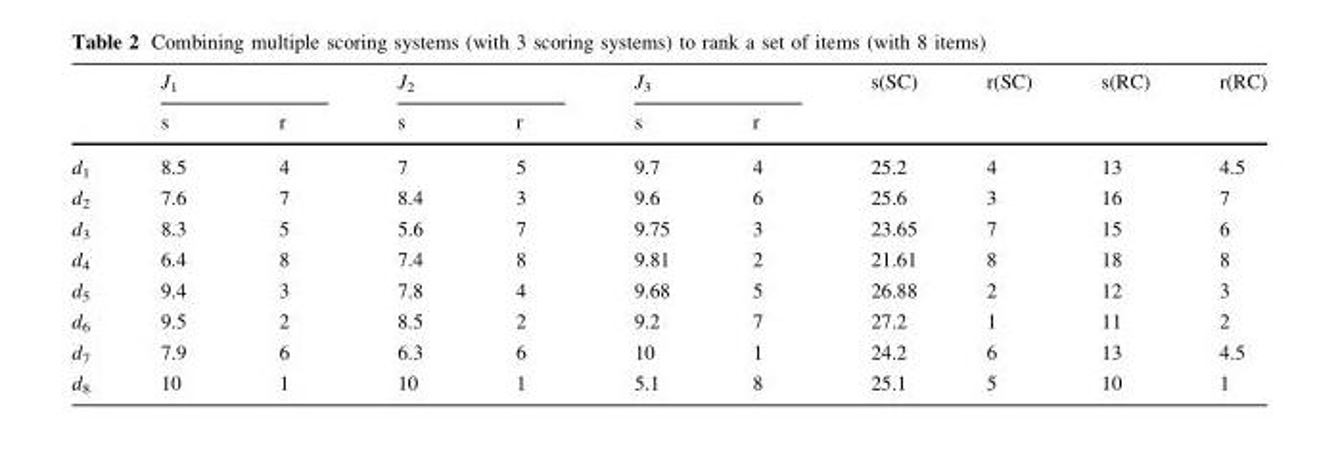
<table><thead><tr><td rowspan="2"></td><td colspan="2">J<sub>1</sub></td><td colspan="2">J<sub>2</sub></td><td colspan="2">J<sub>3</sub></td><td rowspan="2">s(SC)</td><td rowspan="2">r(SC)</td><td rowspan="2">s(RC)</td><td rowspan="2">r(RC)</td></tr><tr><td>s</td><td>r</td><td>s</td><td>r</td><td>s</td><td>r</td></tr></thead><tbody><tr><td>d<sub>1</sub></td><td>8.5</td><td>4</td><td>7</td><td>5</td><td>9.7</td><td>4</td><td>25.2</td><td>4</td><td>13</td><td>4.5</td></tr><tr><td>d<sub>2</sub></td><td>7.6</td><td>7</td><td>8.4</td><td>3</td><td>9.6</td><td>6</td><td>25.6</td><td>3</td><td>16</td><td>7</td></tr><tr><td>d<sub>3</sub></td><td>8.3</td><td>5</td><td>5.6</td><td>7</td><td>9.75</td><td>3</td><td>23.65</td><td>7</td><td>15</td><td>6</td></tr><tr><td>d<sub>4</sub></td><td>6.4</td><td>8</td><td>7.4</td><td>8</td><td>9.81</td><td>2</td><td>21.61</td><td>8</td><td>18</td><td>8</td></tr><tr><td>d<sub>5</sub></td><td>9.4</td><td>3</td><td>7.8</td><td>4</td><td>9.68</td><td>5</td><td>26.88</td><td>2</td><td>12</td><td>3</td></tr><tr><td>d<sub>6</sub></td><td>9.5</td><td>2</td><td>8.5</td><td>2</td><td>9.2</td><td>7</td><td>27.2</td><td>1</td><td>11</td><td>2</td></tr><tr><td>d<sub>7</sub></td><td>7.9</td><td>6</td><td>6.3</td><td>6</td><td>10</td><td>1</td><td>24.2</td><td>6</td><td>13</td><td>4.5</td></tr><tr><td>d<sub>8</sub></td><td>10</td><td>1</td><td>10</td><td>1</td><td>5.1</td><td>8</td><td>25.1</td><td>5</td><td>10</td><td>1</td></tr></tbody></table>